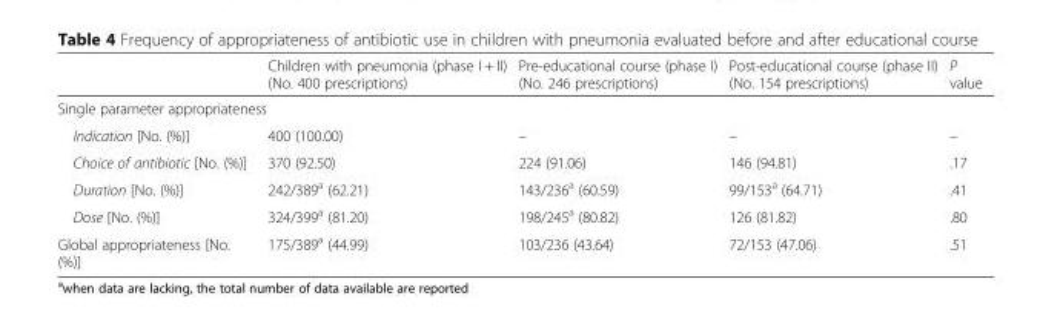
<table><thead><tr><td></td><td>Children with pneumonia (phase I + II) (No. 400 prescriptions)</td><td>Pre-educational course (phase I) (No. 246 prescriptions)</td><td>Post-educational course (phase II) (No. 154 prescriptions)</td><td>P value</td></tr></thead><tbody><tr><td colspan="5">Single parameter appropriateness</td></tr><tr><td>Indication [No. (%)]</td><td>400 (100.00)</td><td>–</td><td>–</td><td>–</td></tr><tr><td>Choice of antibiotic [No. (%)]</td><td>370 (92.50)</td><td>224 (91.06)</td><td>146 (94.81)</td><td>.17</td></tr><tr><td>Duration [No. (%)]</td><td>242/389<sup>a</sup> (62.21)</td><td>143/236<sup>a</sup> (60.59)</td><td>99/153<sup>a</sup> (64.71)</td><td>.41</td></tr><tr><td>Dose [No. (%)]</td><td>324/399<sup>a</sup> (81.20)</td><td>198/245<sup>a</sup> (80.82)</td><td>126 (81.82)</td><td>.80</td></tr><tr><td>Global appropriateness [No. (%)]</td><td>175/389<sup>a</sup> (44.99)</td><td>103/236 (43.64)</td><td>72/153 (47.06)</td><td>.51</td></tr></tbody></table>